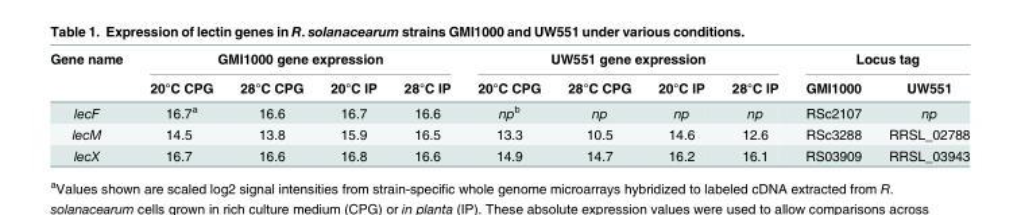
<table><thead><tr><td rowspan="2">Gene name</td><td colspan="4">GMI1000 gene expression</td><td colspan="4">UW551 gene expression</td><td colspan="2">Locus tag</td></tr><tr><td>20°C CPG</td><td>28°C CPG</td><td>20°C IP</td><td>28°C IP</td><td>20°C CPG</td><td>28°C CPG</td><td>20°C IP</td><td>28°C IP</td><td>GMI1000</td><td>UW551</td></tr></thead><tbody><tr><td>lecF</td><td>16.7<sup>a</sup></td><td>16.6</td><td>16.7</td><td>16.6</td><td>np<sup>b</sup></td><td>np</td><td>np</td><td>np</td><td>RSc2107</td><td>np</td></tr><tr><td>lecM</td><td>14.5</td><td>13.8</td><td>15.9</td><td>16.5</td><td>13.3</td><td>10.5</td><td>14.6</td><td>12.6</td><td>RSc3288</td><td>RRSL_02788</td></tr><tr><td>lecX</td><td>16.7</td><td>16.6</td><td>16.8</td><td>16.6</td><td>14.9</td><td>14.7</td><td>16.2</td><td>16.1</td><td>RS03909</td><td>RRSL_03943</td></tr></tbody></table>